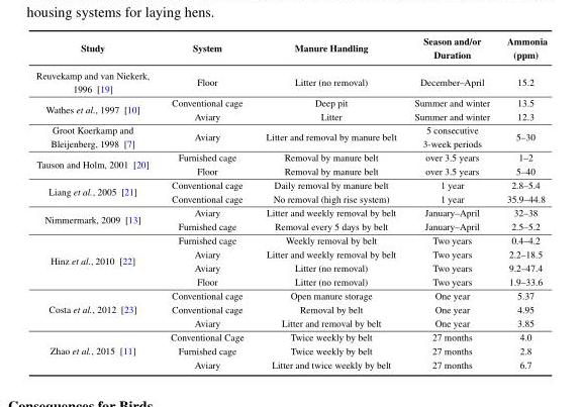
<table><thead><tr><td>Study</td><td>System</td><td>Manure Handling</td><td>Season and/or Duration</td><td>Ammonia (ppm)</td></tr></thead><tbody><tr><td>Reuvekamp and van Niekerk, 1996 [19]</td><td>Floor</td><td>Litter (no removal)</td><td>December–April</td><td>15.2</td></tr><tr><td rowspan="2">Wathes et al., 1997 [10]</td><td>Conventional cage</td><td>Deep pit</td><td>Summer and winter</td><td>13.5</td></tr><tr><td>Aviary</td><td>Litter</td><td>Summer and winter</td><td>12.3</td></tr><tr><td>Groot Koerkamp and Bleijenberg, 1998 [7]</td><td>Aviary</td><td>Litter and removal by manure belt</td><td>5 consecutive 3-week periods</td><td>5–30</td></tr><tr><td rowspan="2">Tauson and Holm, 2001 [20]</td><td>Furnished cage</td><td>Removal by manure belt</td><td>over 3.5 years</td><td>1–2</td></tr><tr><td>Floor</td><td>Removal by manure belt</td><td>over 3.5 years</td><td>5–40</td></tr><tr><td rowspan="2">Liang et al., 2005 [21]</td><td>Conventional cage</td><td>Daily removal by manure belt</td><td>1 year</td><td>2.8–5.4</td></tr><tr><td>Conventional cage</td><td>No removal (high rise system)</td><td>1 year</td><td>35.9–44.8</td></tr><tr><td rowspan="2">Nimmermark, 2009 [13]</td><td>Aviary</td><td>Litter and weekly removal by belt</td><td>January–April</td><td>32–38</td></tr><tr><td>Furnished cage</td><td>Removal every 5 days by belt</td><td>January–April</td><td>2.5–5.2</td></tr><tr><td rowspan="4">Hinz et al., 2010 [22]</td><td>Furnished cage</td><td>Weekly removal by belt</td><td>Two years</td><td>0.4–4.2</td></tr><tr><td>Aviary</td><td>Litter and weekly removal by belt</td><td>Two years</td><td>2.2–18.5</td></tr><tr><td>Aviary</td><td>Litter (no removal)</td><td>Two years</td><td>9.2–47.4</td></tr><tr><td>Floor</td><td>Litter (no removal)</td><td>Two years</td><td>1.9–33.6</td></tr><tr><td rowspan="3">Costa et al., 2012 [23]</td><td>Conventional cage</td><td>Open manure storage</td><td>One year</td><td>5.37</td></tr><tr><td>Conventional cage</td><td>Removal by belt</td><td>One year</td><td>4.95</td></tr><tr><td>Aviary</td><td>Litter and removal by belt</td><td>One year</td><td>3.85</td></tr><tr><td rowspan="3">Zhao et al., 2015 [11]</td><td>Conventional Cage</td><td>Twice weekly by belt</td><td>27 months</td><td>4.0</td></tr><tr><td>Furnished cage</td><td>Twice weekly by belt</td><td>27 months</td><td>2.8</td></tr><tr><td>Aviary</td><td>Litter and twice weekly by belt</td><td>27 months</td><td>6.7</td></tr></tbody></table>